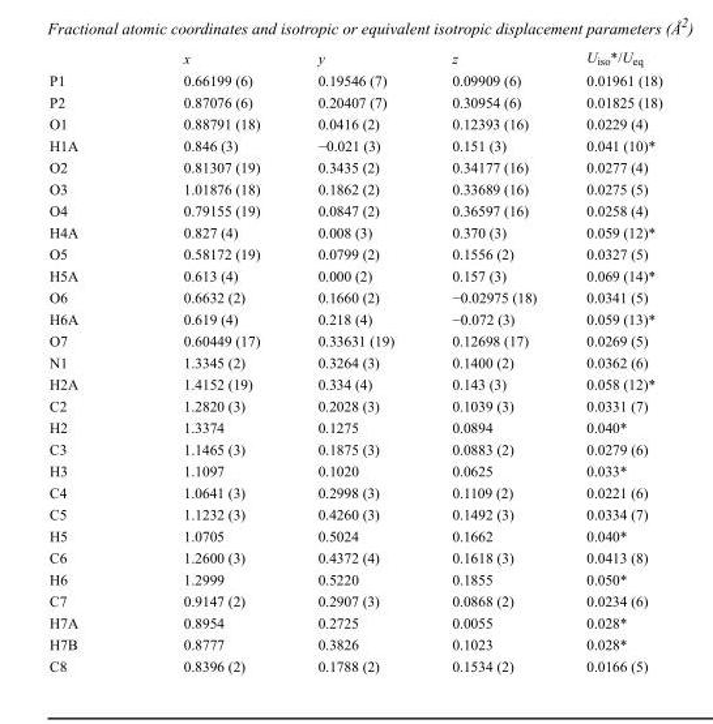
<table><thead><tr><td></td><td>x</td><td>y</td><td>z</td><td>U<sub>iso</sub>*/U<sub>eq</sub></td></tr></thead><tbody><tr><td>P1</td><td>0.66199 (6)</td><td>0.19546 (7)</td><td>0.09909 (6)</td><td>0.01961 (18)</td></tr><tr><td>P2</td><td>0.87076 (6)</td><td>0.20407 (7)</td><td>0.30954 (6)</td><td>0.01825 (18)</td></tr><tr><td>O1</td><td>0.88791 (18)</td><td>0.0416 (2)</td><td>0.12393 (16)</td><td>0.0229 (4)</td></tr><tr><td>H1A</td><td>0.846 (3)</td><td>−0.021 (3)</td><td>0.151 (3)</td><td>0.041 (10)*</td></tr><tr><td>O2</td><td>0.81307 (19)</td><td>0.3435 (2)</td><td>0.34177 (16)</td><td>0.0277 (4)</td></tr><tr><td>O3</td><td>1.01876 (18)</td><td>0.1862 (2)</td><td>0.33689 (16)</td><td>0.0275 (5)</td></tr><tr><td>O4</td><td>0.79155 (19)</td><td>0.0847 (2)</td><td>0.36597 (16)</td><td>0.0258 (4)</td></tr><tr><td>H4A</td><td>0.827 (4)</td><td>0.008 (3)</td><td>0.370 (3)</td><td>0.059 (12)*</td></tr><tr><td>O5</td><td>0.58172 (19)</td><td>0.0799 (2)</td><td>0.1556 (2)</td><td>0.0327 (5)</td></tr><tr><td>H5A</td><td>0.613 (4)</td><td>0.000 (2)</td><td>0.157 (3)</td><td>0.069 (14)*</td></tr><tr><td>O6</td><td>0.6632 (2)</td><td>0.1660 (2)</td><td>−0.02975 (18)</td><td>0.0341 (5)</td></tr><tr><td>H6A</td><td>0.619 (4)</td><td>0.218 (4)</td><td>−0.072 (3)</td><td>0.059 (13)*</td></tr><tr><td>O7</td><td>0.60449 (17)</td><td>0.33631 (19)</td><td>0.12698 (17)</td><td>0.0269 (5)</td></tr><tr><td>N1</td><td>1.3345 (2)</td><td>0.3264 (3)</td><td>0.1400 (2)</td><td>0.0362 (6)</td></tr><tr><td>H2A</td><td>1.4152 (19)</td><td>0.334 (4)</td><td>0.143 (3)</td><td>0.058 (12)*</td></tr><tr><td>C2</td><td>1.2820 (3)</td><td>0.2028 (3)</td><td>0.1039 (3)</td><td>0.0331 (7)</td></tr><tr><td>H2</td><td>1.3374</td><td>0.1275</td><td>0.0894</td><td>0.040*</td></tr><tr><td>C3</td><td>1.1465 (3)</td><td>0.1875 (3)</td><td>0.0883 (2)</td><td>0.0279 (6)</td></tr><tr><td>H3</td><td>1.1097</td><td>0.1020</td><td>0.0625</td><td>0.033*</td></tr><tr><td>C4</td><td>1.0641 (3)</td><td>0.2998 (3)</td><td>0.1109 (2)</td><td>0.0221 (6)</td></tr><tr><td>C5</td><td>1.1232 (3)</td><td>0.4260 (3)</td><td>0.1492 (3)</td><td>0.0334 (7)</td></tr><tr><td>H5</td><td>1.0705</td><td>0.5024</td><td>0.1662</td><td>0.040*</td></tr><tr><td>C6</td><td>1.2600 (3)</td><td>0.4372 (4)</td><td>0.1618 (3)</td><td>0.0413 (8)</td></tr><tr><td>H6</td><td>1.2999</td><td>0.5220</td><td>0.1855</td><td>0.050*</td></tr><tr><td>C7</td><td>0.9147 (2)</td><td>0.2907 (3)</td><td>0.0868 (2)</td><td>0.0234 (6)</td></tr><tr><td>H7A</td><td>0.8954</td><td>0.2725</td><td>0.0055</td><td>0.028*</td></tr><tr><td>H7B</td><td>0.8777</td><td>0.3826</td><td>0.1023</td><td>0.028*</td></tr><tr><td>C8</td><td>0.8396 (2)</td><td>0.1788 (2)</td><td>0.1534 (2)</td><td>0.0166 (5)</td></tr></tbody></table>